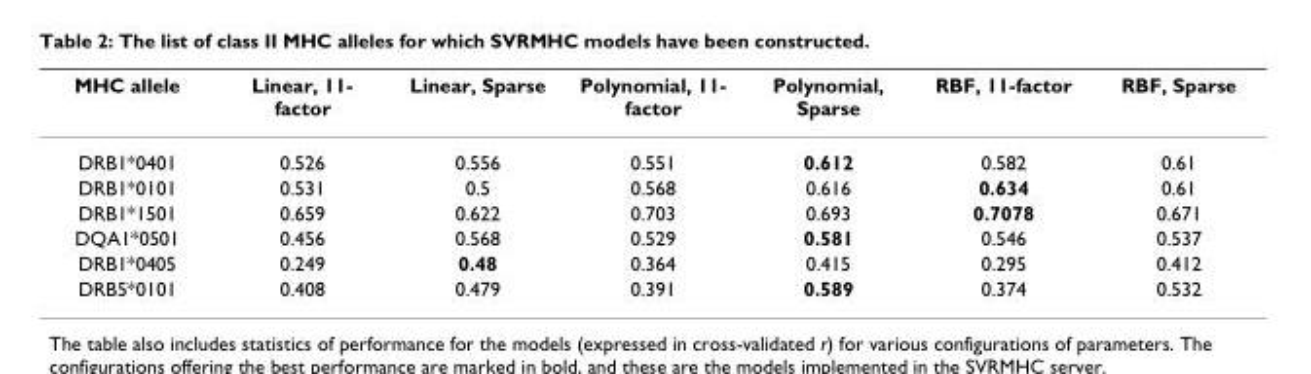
<table><thead><tr><td>MHC allele</td><td>Linear, 11- factor</td><td>Linear, Sparse</td><td>Polynomial, 11- factor</td><td>Polynomial, Sparse</td><td>RBF, 11-factor</td><td>RBF, Sparse</td></tr></thead><tbody><tr><td>DRB1*0401</td><td>0.526</td><td>0.556</td><td>0.551</td><td>0.612</td><td>0.582</td><td>0.61</td></tr><tr><td>DRB1*0101</td><td>0.531</td><td>0.5</td><td>0.568</td><td>0.616</td><td>0.634</td><td>0.61</td></tr><tr><td>DRB1*1501</td><td>0.659</td><td>0.622</td><td>0.703</td><td>0.693</td><td>0.7078</td><td>0.671</td></tr><tr><td>DQA1*0501</td><td>0.456</td><td>0.568</td><td>0.529</td><td>0.581</td><td>0.546</td><td>0.537</td></tr><tr><td>DRB1*0405</td><td>0.249</td><td>0.48</td><td>0.364</td><td>0.415</td><td>0.295</td><td>0.412</td></tr><tr><td>DRB5*0101</td><td>0.408</td><td>0.479</td><td>0.391</td><td>0.589</td><td>0.374</td><td>0.532</td></tr></tbody></table>